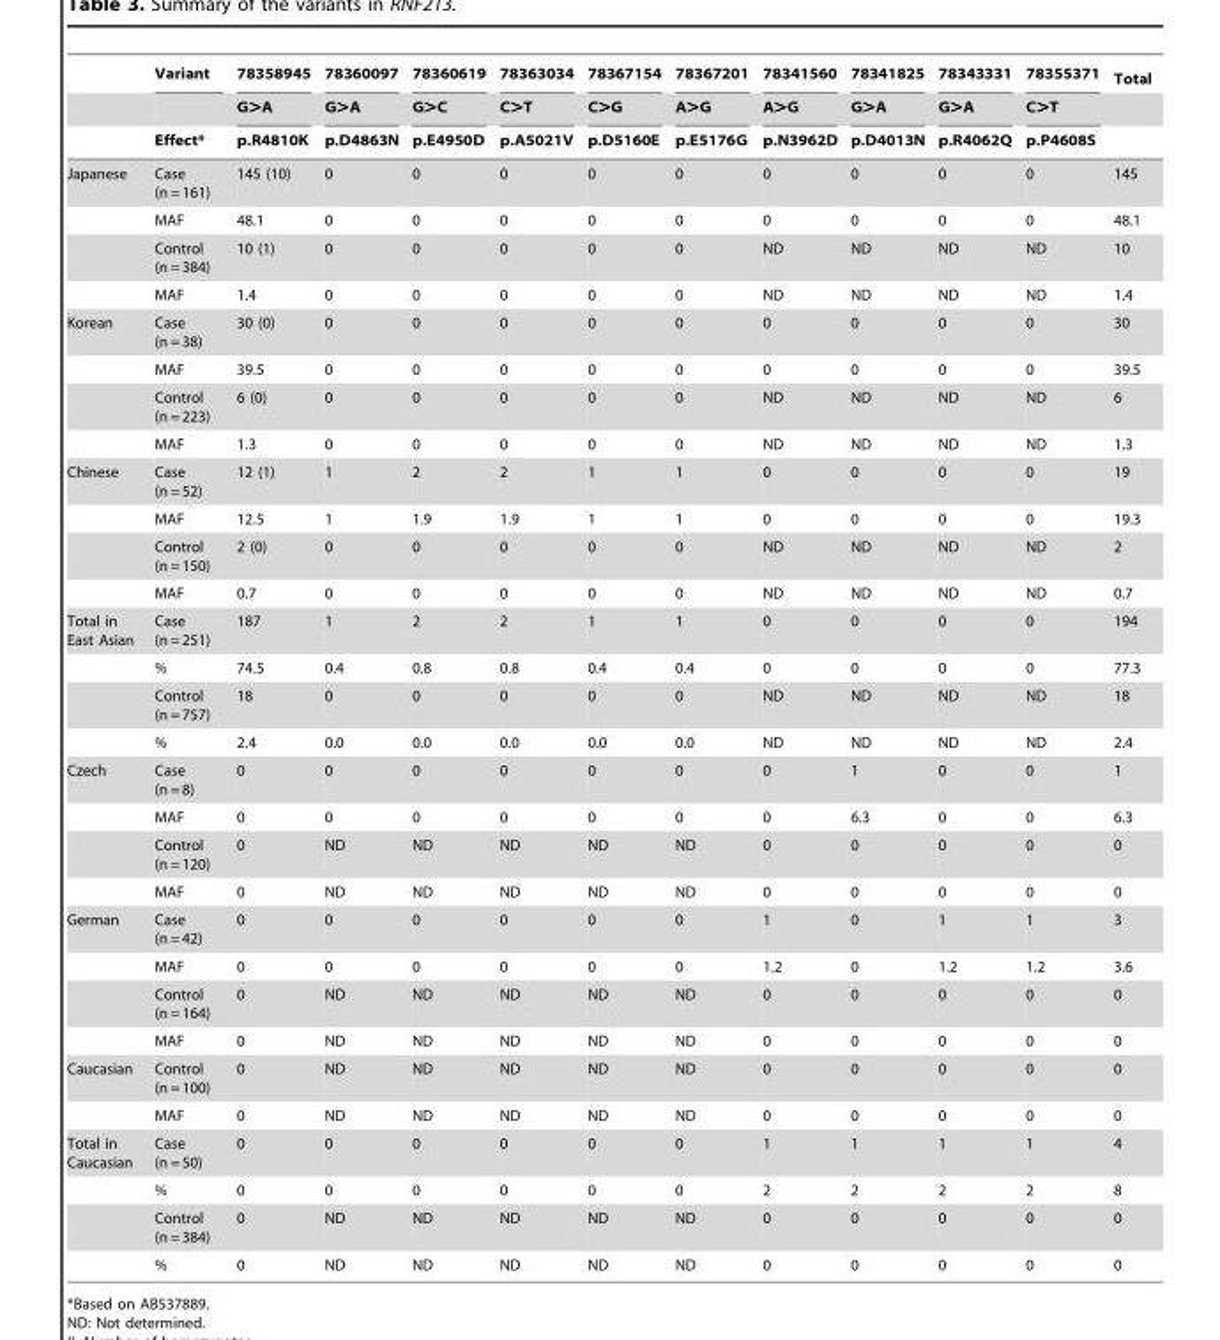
<table><thead><tr><td rowspan="3"></td><td rowspan="3">Variant Effect*</td><td rowspan="3">78358945 G&gt;A p.R4810K</td><td rowspan="3">78360097 G&gt;A p.D4863N</td><td rowspan="3">78360619 G&gt;C p.E4950D</td><td rowspan="3">78363034 C&gt;T p.A5021V</td><td rowspan="3">78367154 C&gt;G p.D5160E</td><td rowspan="3">78367201 A&gt;G p.E5176G</td><td rowspan="3">78341560 A&gt;G p.N3962D</td><td rowspan="3">78341825 G&gt;A p.D4013N</td><td rowspan="3">78343331 G&gt;A p.R4062Q</td><td rowspan="3">78355371 C&gt;T p.P4608S</td><td rowspan="3">Total</td></tr><tr></tr><tr></tr></thead><tbody><tr><td rowspan="4">Japanese</td><td>Case (n = 161)</td><td>145 (10)</td><td>0</td><td>0</td><td>0</td><td>0</td><td>0</td><td>0</td><td>0</td><td>0</td><td>0</td><td>145</td></tr><tr><td>MAF</td><td>48.1</td><td>0</td><td>0</td><td>0</td><td>0</td><td>0</td><td>0</td><td>0</td><td>0</td><td>0</td><td>48.1</td></tr><tr><td>Control (n = 384)</td><td>10 (1)</td><td>0</td><td>0</td><td>0</td><td>0</td><td>0</td><td>ND</td><td>ND</td><td>ND</td><td>ND</td><td>10</td></tr><tr><td>MAF</td><td>1.4</td><td>0</td><td>0</td><td>0</td><td>0</td><td>0</td><td>ND</td><td>ND</td><td>ND</td><td>ND</td><td>1.4</td></tr><tr><td rowspan="4">Korean</td><td>Case (n = 38)</td><td>30 (0)</td><td>0</td><td>0</td><td>0</td><td>0</td><td>0</td><td>0</td><td>0</td><td>0</td><td>0</td><td>30</td></tr><tr><td>MAF</td><td>39.5</td><td>0</td><td>0</td><td>0</td><td>0</td><td>0</td><td>0</td><td>0</td><td>0</td><td>0</td><td>39.5</td></tr><tr><td>Control (n = 223)</td><td>6 (0)</td><td>0</td><td>0</td><td>0</td><td>0</td><td>0</td><td>ND</td><td>ND</td><td>ND</td><td>ND</td><td>6</td></tr><tr><td>MAF</td><td>1.3</td><td>0</td><td>0</td><td>0</td><td>0</td><td>0</td><td>ND</td><td>ND</td><td>ND</td><td>ND</td><td>1.3</td></tr><tr><td rowspan="4">Chinese</td><td>Case (n = 52)</td><td>12 (1)</td><td>1</td><td>2</td><td>2</td><td>1</td><td>1</td><td>0</td><td>0</td><td>0</td><td>0</td><td>19</td></tr><tr><td>MAF</td><td>12.5</td><td>1</td><td>1.9</td><td>1.9</td><td>1</td><td>1</td><td>0</td><td>0</td><td>0</td><td>0</td><td>19.3</td></tr><tr><td>Control (n = 150)</td><td>2 (0)</td><td>0</td><td>0</td><td>0</td><td>0</td><td>0</td><td>ND</td><td>ND</td><td>ND</td><td>ND</td><td>2</td></tr><tr><td>MAF</td><td>0.7</td><td>0</td><td>0</td><td>0</td><td>0</td><td>0</td><td>ND</td><td>ND</td><td>ND</td><td>ND</td><td>0.7</td></tr><tr><td rowspan="4">Total in East Asian</td><td>Case (n = 251)</td><td>187</td><td>1</td><td>2</td><td>2</td><td>1</td><td>1</td><td>0</td><td>0</td><td>0</td><td>0</td><td>194</td></tr><tr><td>%</td><td>74.5</td><td>0.4</td><td>0.8</td><td>0.8</td><td>0.4</td><td>0.4</td><td>0</td><td>0</td><td>0</td><td>0</td><td>77.3</td></tr><tr><td>Control (n = 757)</td><td>18</td><td>0</td><td>0</td><td>0</td><td>0</td><td>0</td><td>ND</td><td>ND</td><td>ND</td><td>ND</td><td>18</td></tr><tr><td>%</td><td>2.4</td><td>0.0</td><td>0.0</td><td>0.0</td><td>0.0</td><td>0.0</td><td>ND</td><td>ND</td><td>ND</td><td>ND</td><td>2.4</td></tr><tr><td rowspan="4">Czech</td><td>Case (n = 8)</td><td>0</td><td>0</td><td>0</td><td>0</td><td>0</td><td>0</td><td>0</td><td>1</td><td>0</td><td>0</td><td>1</td></tr><tr><td>MAF</td><td>0</td><td>0</td><td>0</td><td>0</td><td>0</td><td>0</td><td>0</td><td>6.3</td><td>0</td><td>0</td><td>6.3</td></tr><tr><td>Control (n = 120)</td><td>0</td><td>ND</td><td>ND</td><td>ND</td><td>ND</td><td>ND</td><td>0</td><td>0</td><td>0</td><td>0</td><td>0</td></tr><tr><td>MAF</td><td>0</td><td>ND</td><td>ND</td><td>ND</td><td>ND</td><td>ND</td><td>0</td><td>0</td><td>0</td><td>0</td><td>0</td></tr><tr><td rowspan="4">German</td><td>Case (n = 42)</td><td>0</td><td>0</td><td>0</td><td>0</td><td>0</td><td>0</td><td>1</td><td>0</td><td>1</td><td>1</td><td>3</td></tr><tr><td>MAF</td><td>0</td><td>0</td><td>0</td><td>0</td><td>0</td><td>0</td><td>1.2</td><td>0</td><td>1.2</td><td>1.2</td><td>3.6</td></tr><tr><td>Control (n = 164)</td><td>0</td><td>ND</td><td>ND</td><td>ND</td><td>ND</td><td>ND</td><td>0</td><td>0</td><td>0</td><td>0</td><td>0</td></tr><tr><td>MAF</td><td>0</td><td>ND</td><td>ND</td><td>ND</td><td>ND</td><td>ND</td><td>0</td><td>0</td><td>0</td><td>0</td><td>0</td></tr><tr><td rowspan="2">Caucasian</td><td>Control (n = 100)</td><td>0</td><td>ND</td><td>ND</td><td>ND</td><td>ND</td><td>ND</td><td>0</td><td>0</td><td>0</td><td>0</td><td>0</td></tr><tr><td>MAF</td><td>0</td><td>ND</td><td>ND</td><td>ND</td><td>ND</td><td>ND</td><td>0</td><td>0</td><td>0</td><td>0</td><td>0</td></tr><tr><td rowspan="4">Total in Caucasian</td><td>Case (n = 50)</td><td>0</td><td>0</td><td>0</td><td>0</td><td>0</td><td>0</td><td>1</td><td>1</td><td>1</td><td>1</td><td>4</td></tr><tr><td>%</td><td>0</td><td>0</td><td>0</td><td>0</td><td>0</td><td>0</td><td>2</td><td>2</td><td>2</td><td>2</td><td>8</td></tr><tr><td>Control (n = 384)</td><td>0</td><td>ND</td><td>ND</td><td>ND</td><td>ND</td><td>ND</td><td>0</td><td>0</td><td>0</td><td>0</td><td>0</td></tr><tr><td>%</td><td>0</td><td>ND</td><td>ND</td><td>ND</td><td>ND</td><td>ND</td><td>0</td><td>0</td><td>0</td><td>0</td><td>0</td></tr></tbody></table>